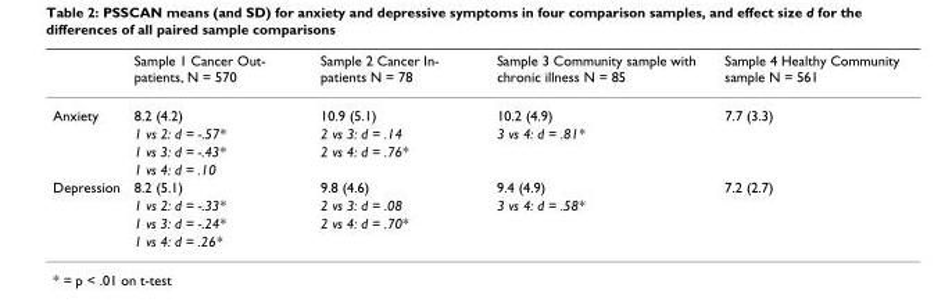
<table><thead><tr><td></td><td>Sample 1 Cancer Out- patients, N = 570</td><td>Sample 2 Cancer In- patients N = 78</td><td>Sample 3 Community sample with chronic illness N = 85</td><td>Sample 4 Healthy Community sample N = 561</td></tr></thead><tbody><tr><td rowspan="4">Anxiety</td><td>8.2 (4.2)</td><td>10.9 (5.1)</td><td>10.2 (4.9)</td><td>7.7 (3.3)</td></tr><tr><td>1 vs 2: d = -.57*</td><td>2 vs 3: d = .14</td><td>3 vs 4: d = .81*</td><td></td></tr><tr><td>1 vs 3: d = -.43*</td><td>2 vs 4: d = .76*</td><td></td><td></td></tr><tr><td>1 vs 4: d = .10</td><td></td><td></td><td></td></tr><tr><td rowspan="4">Depression</td><td>8.2 (5.1)</td><td>9.8 (4.6)</td><td>9.4 (4.9)</td><td>7.2 (2.7)</td></tr><tr><td>1 vs 2: d = -.33*</td><td>2 vs 3: d = .08</td><td>3 vs 4: d = .58*</td><td></td></tr><tr><td>1 vs 3: d = -.24*</td><td>2 vs 4: d = .70*</td><td></td><td></td></tr><tr><td>1 vs 4: d = .26*</td><td></td><td></td><td></td></tr></tbody></table>